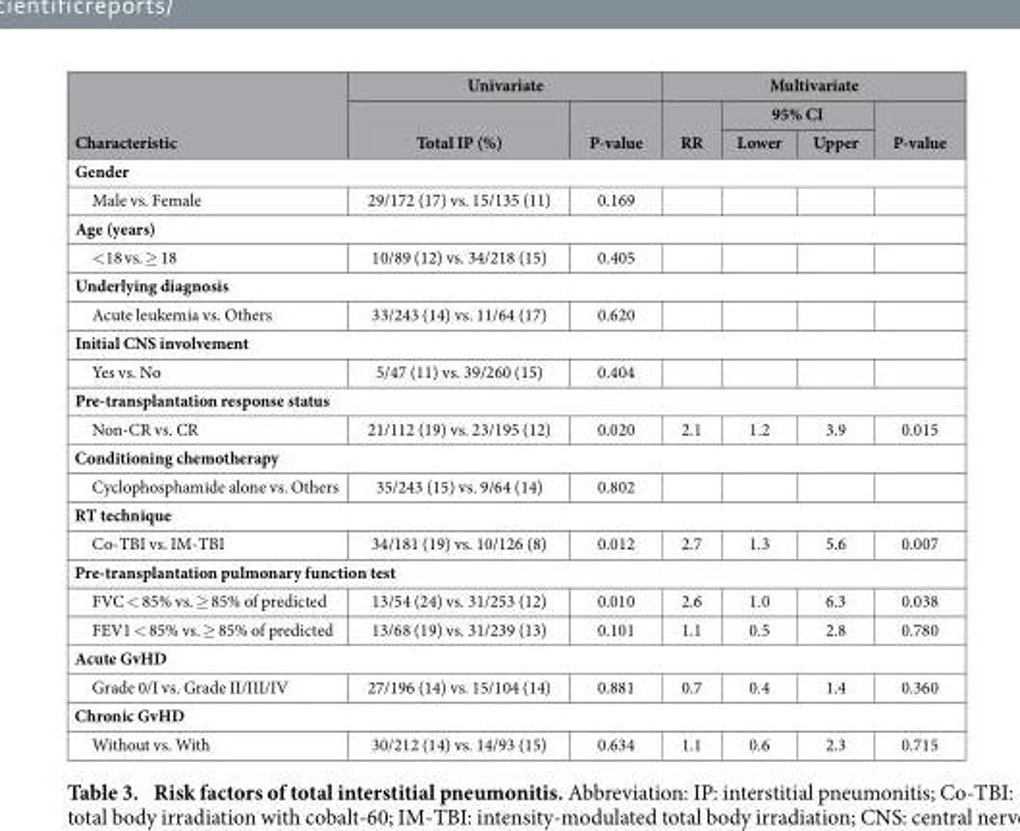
<table><thead><tr><td rowspan="3">Characteristic</td><td colspan="2">Univariate</td><td colspan="4">Multivariate</td></tr><tr><td rowspan="2">Total IP (%)</td><td rowspan="2">P-value</td><td rowspan="2">RR</td><td colspan="2">95% CI</td><td rowspan="2">P-value</td></tr><tr><td>Lower</td><td>Upper</td></tr></thead><tbody><tr><td colspan="7">Gender</td></tr><tr><td>Male vs. Female</td><td>29/172 (17) vs. 15/135 (11)</td><td>0.169</td><td></td><td></td><td></td><td></td></tr><tr><td colspan="7">Age (years)</td></tr><tr><td>&lt; 18 vs. ≥ 18</td><td>10/89 (12) vs. 34/218 (15)</td><td>0.405</td><td></td><td></td><td></td><td></td></tr><tr><td colspan="7">Underlying diagnosis</td></tr><tr><td>Acute leukemia vs. Others</td><td>33/243 (14) vs. 11/64 (17)</td><td>0.620</td><td></td><td></td><td></td><td></td></tr><tr><td colspan="7">Initial CNS involvement</td></tr><tr><td>Yes vs. No</td><td>5/47 (11) vs. 39/260 (15)</td><td>0.404</td><td></td><td></td><td></td><td></td></tr><tr><td colspan="7">Pre-transplantation response status</td></tr><tr><td>Non-CR vs. CR</td><td>21/112 (19) vs. 23/195 (12)</td><td>0.020</td><td>2.1</td><td>1.2</td><td>3.9</td><td>0.015</td></tr><tr><td colspan="7">Conditioning chemotherapy</td></tr><tr><td>Cyclophosphamide alone vs. Others</td><td>35/243 (15) vs. 9/64 (14)</td><td>0.802</td><td></td><td></td><td></td><td></td></tr><tr><td colspan="7">RT technique</td></tr><tr><td>Co-TBI vs. IM-TBI</td><td>34/181 (19) vs. 10/126 (8)</td><td>0.012</td><td>2.7</td><td>1.3</td><td>5.6</td><td>0.007</td></tr><tr><td colspan="7">Pre-transplantation pulmonary function test</td></tr><tr><td>FVC &lt; 85% vs. ≥ 85% of predicted</td><td>13/54 (24) vs. 31/253 (12)</td><td>0.010</td><td>2.6</td><td>1.0</td><td>6.3</td><td>0.038</td></tr><tr><td>FEV1 &lt; 85% vs. ≥ 85% of predicted</td><td>13/68 (19) vs. 31/239 (13)</td><td>0.101</td><td>1.1</td><td>0.5</td><td>2.8</td><td>0.780</td></tr><tr><td colspan="7">Acute GvHD</td></tr><tr><td>Grade 0/I vs. Grade II/III/IV</td><td>27/196 (14) vs. 15/104 (14)</td><td>0.881</td><td>0.7</td><td>0.4</td><td>1.4</td><td>0.360</td></tr><tr><td colspan="7">Chronic GvHD</td></tr><tr><td>Without vs. With</td><td>30/212 (14) vs. 14/93 (15)</td><td>0.634</td><td>1.1</td><td>0.6</td><td>2.3</td><td>0.715</td></tr></tbody></table>